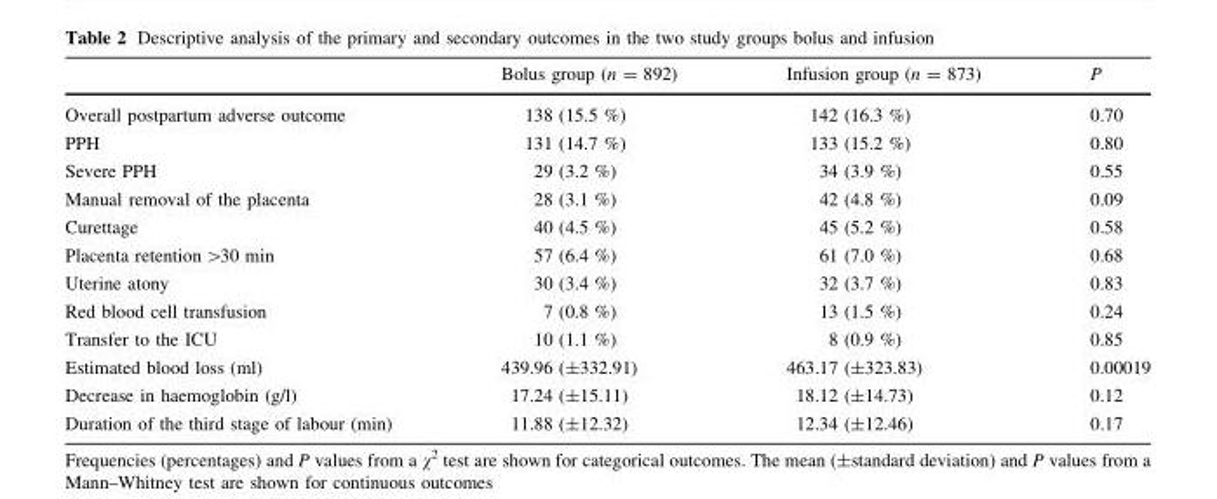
<table><thead><tr><td></td><td>Bolus group (n = 892)</td><td>Infusion group (n = 873)</td><td>P</td></tr></thead><tbody><tr><td>Overall postpartum adverse outcome</td><td>138 (15.5 %)</td><td>142 (16.3 %)</td><td>0.70</td></tr><tr><td>PPH</td><td>131 (14.7 %)</td><td>133 (15.2 %)</td><td>0.80</td></tr><tr><td>Severe PPH</td><td>29 (3.2 %)</td><td>34 (3.9 %)</td><td>0.55</td></tr><tr><td>Manual removal of the placenta</td><td>28 (3.1 %)</td><td>42 (4.8 %)</td><td>0.09</td></tr><tr><td>Curettage</td><td>40 (4.5 %)</td><td>45 (5.2 %)</td><td>0.58</td></tr><tr><td>Placenta retention &gt;30 min</td><td>57 (6.4 %)</td><td>61 (7.0 %)</td><td>0.68</td></tr><tr><td>Uterine atony</td><td>30 (3.4 %)</td><td>32 (3.7 %)</td><td>0.83</td></tr><tr><td>Red blood cell transfusion</td><td>7 (0.8 %)</td><td>13 (1.5 %)</td><td>0.24</td></tr><tr><td>Transfer to the ICU</td><td>10 (1.1 %)</td><td>8 (0.9 %)</td><td>0.85</td></tr><tr><td>Estimated blood loss (ml)</td><td>439.96 (±332.91)</td><td>463.17 (±323.83)</td><td>0.00019</td></tr><tr><td>Decrease in haemoglobin (g/l)</td><td>17.24 (±15.11)</td><td>18.12 (±14.73)</td><td>0.12</td></tr><tr><td>Duration of the third stage of labour (min)</td><td>11.88 (±12.32)</td><td>12.34 (±12.46)</td><td>0.17</td></tr></tbody></table>